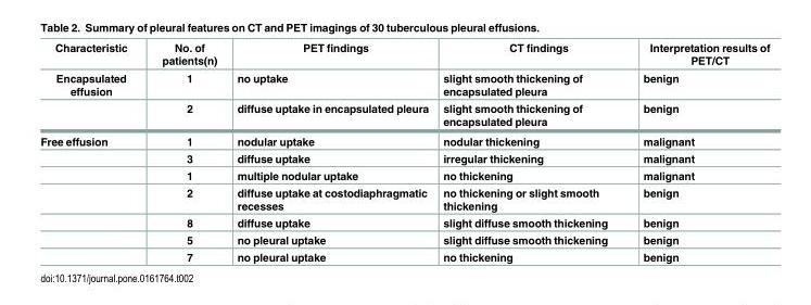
<table><thead><tr><td>Characteristic</td><td>No. of patients(n)</td><td>PET findings</td><td>CT findings</td><td>Interpretation results of PET/CT</td></tr></thead><tbody><tr><td rowspan="2">Encapsulated effusion</td><td>1</td><td>no uptake</td><td>slight smooth thickening of encapsulated pleura</td><td>benign</td></tr><tr><td>2</td><td>diffuse uptake in encapsulated pleura</td><td>slight smooth thickening of encapsulated pleura</td><td>benign</td></tr><tr><td rowspan="7">Free effusion</td><td>1</td><td>nodular uptake</td><td>nodular thickening</td><td>malignant</td></tr><tr><td>3</td><td>diffuse uptake</td><td>irregular thickening</td><td>malignant</td></tr><tr><td>1</td><td>multiple nodular uptake</td><td>no thickening</td><td>malignant</td></tr><tr><td>2</td><td>diffuse uptake at costodiaphragmatic recesses</td><td>no thickening or slight smooth thickening</td><td>benign</td></tr><tr><td>8</td><td>diffuse uptake</td><td>slight diffuse smooth thickening</td><td>benign</td></tr><tr><td>5</td><td>no pleural uptake</td><td>slight diffuse smooth thickening</td><td>benign</td></tr><tr><td>7</td><td>no pleural uptake</td><td>no thickening</td><td>benign</td></tr></tbody></table>